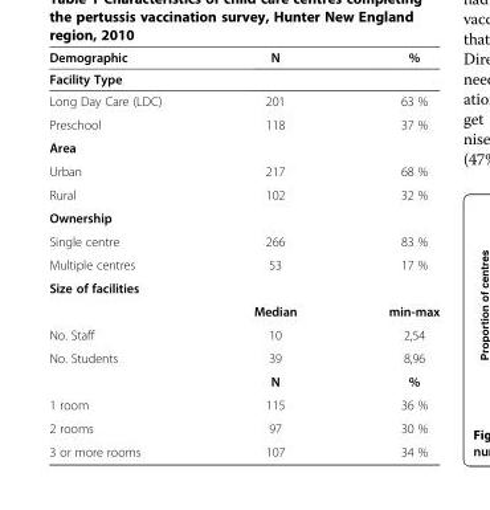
<table><thead><tr><td>Demographic</td><td>N</td><td>%</td></tr></thead><tbody><tr><td colspan="3">Facility Type</td></tr><tr><td>Long Day Care (LDC)</td><td>201</td><td>63 %</td></tr><tr><td>Preschool</td><td>118</td><td>37 %</td></tr><tr><td colspan="3">Area</td></tr><tr><td>Urban</td><td>217</td><td>68 %</td></tr><tr><td>Rural</td><td>102</td><td>32 %</td></tr><tr><td colspan="3">Ownership</td></tr><tr><td>Single centre</td><td>266</td><td>83 %</td></tr><tr><td>Multiple centres</td><td>53</td><td>17 %</td></tr><tr><td colspan="3">Size of facilities</td></tr><tr><td></td><td>Median</td><td>min-max</td></tr><tr><td>No. Staff</td><td>10</td><td>2,54</td></tr><tr><td rowspan="2">No. Students</td><td>39</td><td>8,96</td></tr><tr><td>N</td><td>%</td></tr><tr><td>1 room</td><td>115</td><td>36 %</td></tr><tr><td>2 rooms</td><td>97</td><td>30 %</td></tr><tr><td>3 or more rooms</td><td>107</td><td>34 %</td></tr></tbody></table>